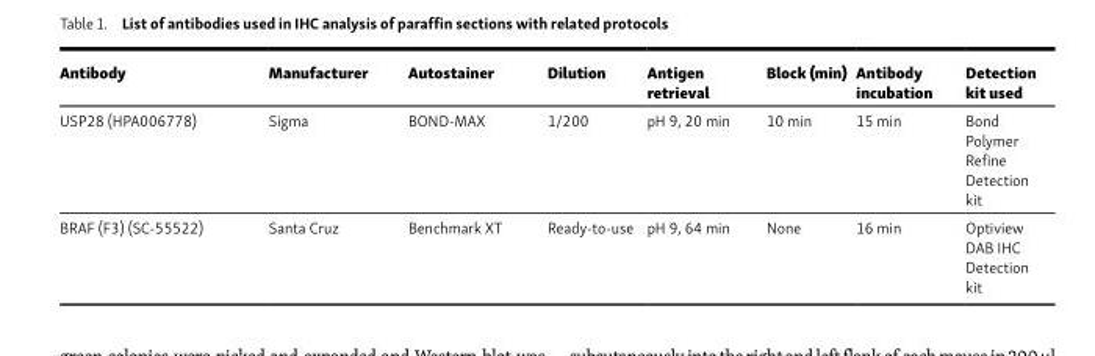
<table><thead><tr><td>Antibody</td><td>Manufacturer</td><td>Autostainer</td><td>Dilution</td><td>Antigen retrieval</td><td>Block (min)</td><td>Antibody incubation</td><td>Detection kit used</td></tr></thead><tbody><tr><td>USP28 (HPA006778)</td><td>Sigma</td><td>BOND-MAX</td><td>1/200</td><td>pH 9, 20 min</td><td>10 min</td><td>15 min</td><td>Bond Polymer Refine Detection kit</td></tr><tr><td>BRAF (F3) (SC-55522)</td><td>Santa Cruz</td><td>Benchmark XT</td><td>Ready-to-use</td><td>pH 9, 64 min</td><td>None</td><td>16 min</td><td>Optiview DAB IHC Detection kit</td></tr></tbody></table>